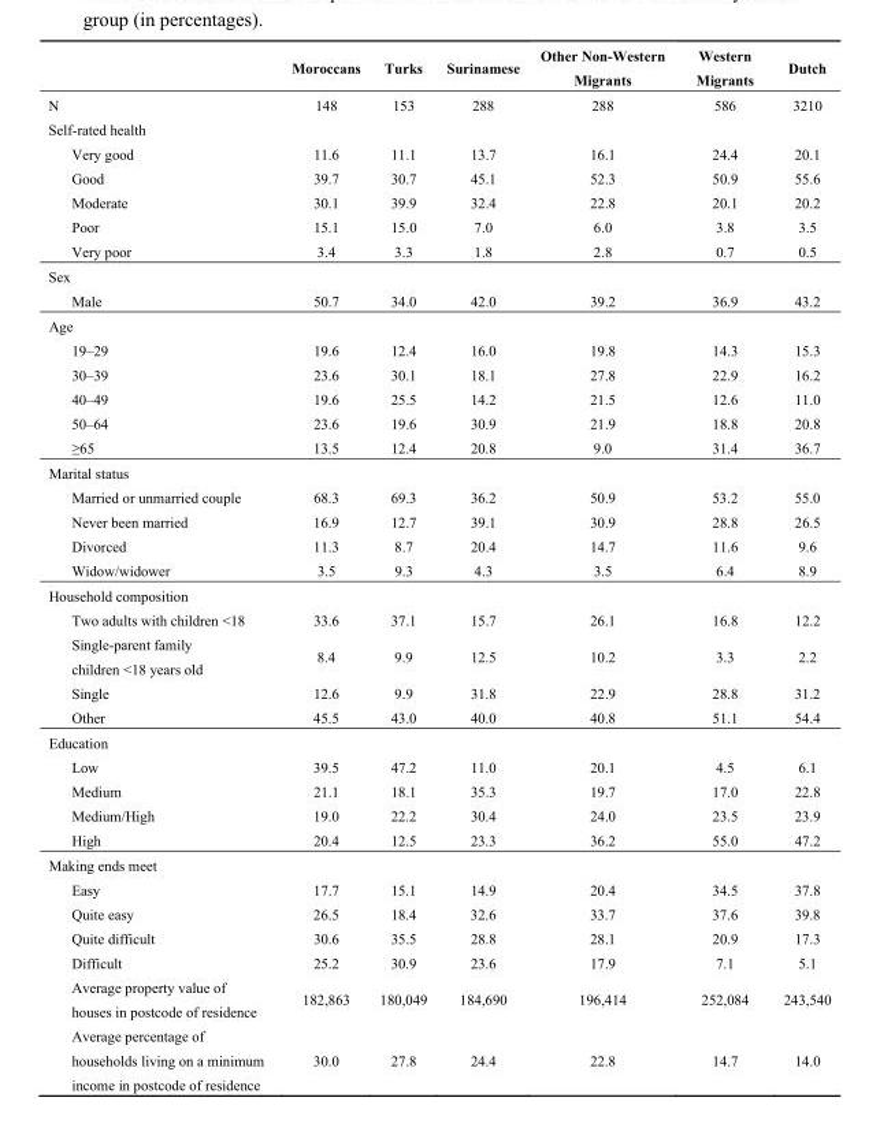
<table><thead><tr><td></td><td>Moroccans</td><td>Turks</td><td>Surinamese</td><td>Other Non-Western Migrants</td><td>Western Migrants</td><td>Dutch</td></tr></thead><tbody><tr><td>N</td><td>148</td><td>153</td><td>288</td><td>288</td><td>586</td><td>3210</td></tr><tr><td colspan="7">Self-rated health</td></tr><tr><td>Very good</td><td>11.6</td><td>11.1</td><td>13.7</td><td>16.1</td><td>24.4</td><td>20.1</td></tr><tr><td>Good</td><td>39.7</td><td>30.7</td><td>45.1</td><td>52.3</td><td>50.9</td><td>55.6</td></tr><tr><td>Moderate</td><td>30.1</td><td>39.9</td><td>32.4</td><td>22.8</td><td>20.1</td><td>20.2</td></tr><tr><td>Poor</td><td>15.1</td><td>15.0</td><td>7.0</td><td>6.0</td><td>3.8</td><td>3.5</td></tr><tr><td>Very poor</td><td>3.4</td><td>3.3</td><td>1.8</td><td>2.8</td><td>0.7</td><td>0.5</td></tr><tr><td colspan="7">Sex</td></tr><tr><td>Male</td><td>50.7</td><td>34.0</td><td>42.0</td><td>39.2</td><td>36.9</td><td>43.2</td></tr><tr><td colspan="7">Age</td></tr><tr><td>19–29</td><td>19.6</td><td>12.4</td><td>16.0</td><td>19.8</td><td>14.3</td><td>15.3</td></tr><tr><td>30–39</td><td>23.6</td><td>30.1</td><td>18.1</td><td>27.8</td><td>22.9</td><td>16.2</td></tr><tr><td>40–49</td><td>19.6</td><td>25.5</td><td>14.2</td><td>21.5</td><td>12.6</td><td>11.0</td></tr><tr><td>50–64</td><td>23.6</td><td>19.6</td><td>30.9</td><td>21.9</td><td>18.8</td><td>20.8</td></tr><tr><td>≥65</td><td>13.5</td><td>12.4</td><td>20.8</td><td>9.0</td><td>31.4</td><td>36.7</td></tr><tr><td colspan="7">Marital status</td></tr><tr><td>Married or unmarried couple</td><td>68.3</td><td>69.3</td><td>36.2</td><td>50.9</td><td>53.2</td><td>55.0</td></tr><tr><td>Never been married</td><td>16.9</td><td>12.7</td><td>39.1</td><td>30.9</td><td>28.8</td><td>26.5</td></tr><tr><td>Divorced</td><td>11.3</td><td>8.7</td><td>20.4</td><td>14.7</td><td>11.6</td><td>9.6</td></tr><tr><td>Widow/widower</td><td>3.5</td><td>9.3</td><td>4.3</td><td>3.5</td><td>6.4</td><td>8.9</td></tr><tr><td colspan="7">Household composition</td></tr><tr><td>Two adults with children &lt;18</td><td>33.6</td><td>37.1</td><td>15.7</td><td>26.1</td><td>16.8</td><td>12.2</td></tr><tr><td>Single-parent family children &lt;18 years old</td><td>8.4</td><td>9.9</td><td>12.5</td><td>10.2</td><td>3.3</td><td>2.2</td></tr><tr><td>Single</td><td>12.6</td><td>9.9</td><td>31.8</td><td>22.9</td><td>28.8</td><td>31.2</td></tr><tr><td>Other</td><td>45.5</td><td>43.0</td><td>40.0</td><td>40.8</td><td>51.1</td><td>54.4</td></tr><tr><td colspan="7">Education</td></tr><tr><td>Low</td><td>39.5</td><td>47.2</td><td>11.0</td><td>20.1</td><td>4.5</td><td>6.1</td></tr><tr><td>Medium</td><td>21.1</td><td>18.1</td><td>35.3</td><td>19.7</td><td>17.0</td><td>22.8</td></tr><tr><td>Medium/High</td><td>19.0</td><td>22.2</td><td>30.4</td><td>24.0</td><td>23.5</td><td>23.9</td></tr><tr><td>High</td><td>20.4</td><td>12.5</td><td>23.3</td><td>36.2</td><td>55.0</td><td>47.2</td></tr><tr><td colspan="7">Making ends meet</td></tr><tr><td>Easy</td><td>17.7</td><td>15.1</td><td>14.9</td><td>20.4</td><td>34.5</td><td>37.8</td></tr><tr><td>Quite easy</td><td>26.5</td><td>18.4</td><td>32.6</td><td>33.7</td><td>37.6</td><td>39.8</td></tr><tr><td>Quite difficult</td><td>30.6</td><td>35.5</td><td>28.8</td><td>28.1</td><td>20.9</td><td>17.3</td></tr><tr><td>Difficult</td><td>25.2</td><td>30.9</td><td>23.6</td><td>17.9</td><td>7.1</td><td>5.1</td></tr><tr><td>Average property value of houses in postcode of residence</td><td>182,863</td><td>180,049</td><td>184,690</td><td>196,414</td><td>252,084</td><td>243,540</td></tr><tr><td>Average percentage of households living on a minimum income in postcode of residence</td><td>30.0</td><td>27.8</td><td>24.4</td><td>22.8</td><td>14.7</td><td>14.0</td></tr></tbody></table>